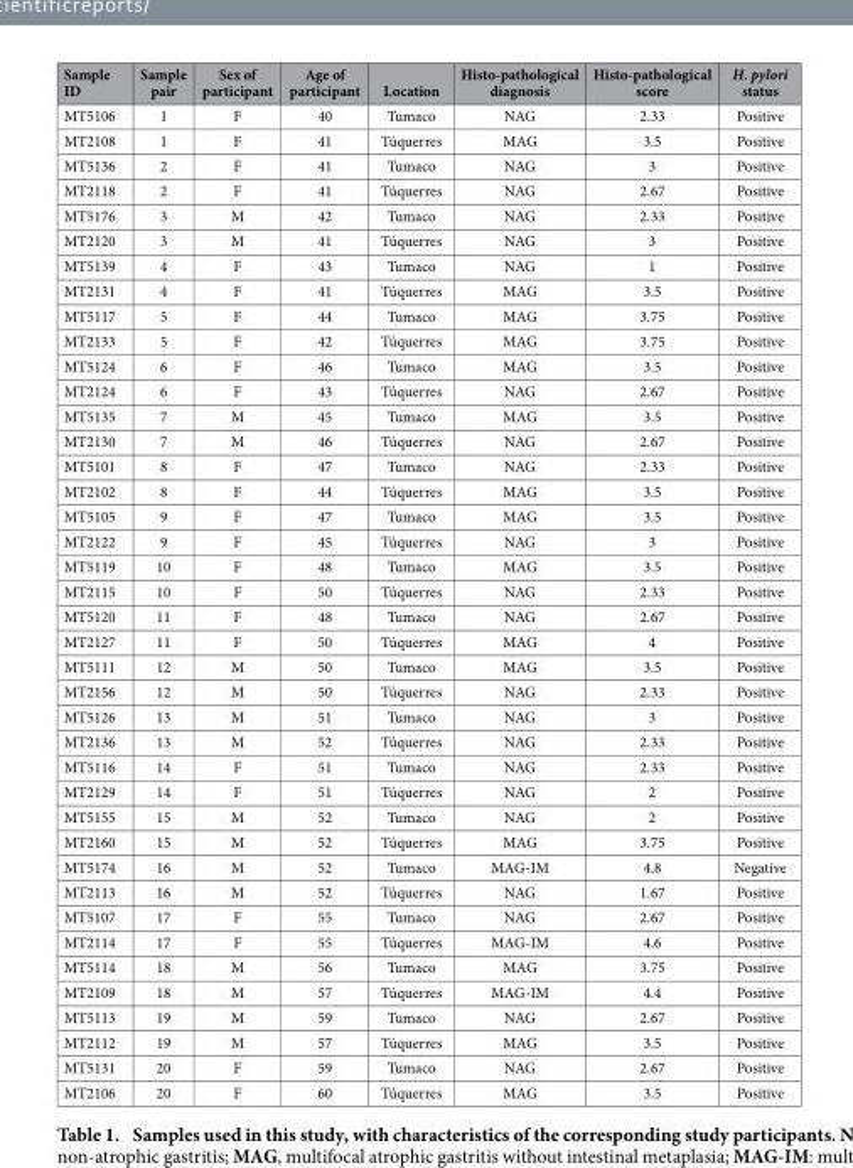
<table><thead><tr><td>Sample ID</td><td>Sample pair</td><td>Sex of participant</td><td>Age of participant</td><td>Location</td><td>Histo-pathological diagnosis</td><td>Histo-pathological score</td><td>H. pylori status</td></tr></thead><tbody><tr><td>MT5106</td><td>1</td><td>F</td><td>40</td><td>Tumaco</td><td>NAG</td><td>2.33</td><td>Positive</td></tr><tr><td>MT2108</td><td>1</td><td>F</td><td>41</td><td>Túquerres</td><td>MAG</td><td>3.5</td><td>Positive</td></tr><tr><td>MT5136</td><td>2</td><td>F</td><td>41</td><td>Tumaco</td><td>NAG</td><td>3</td><td>Positive</td></tr><tr><td>MT2118</td><td>2</td><td>F</td><td>41</td><td>Túquerres</td><td>NAG</td><td>2.67</td><td>Positive</td></tr><tr><td>MT5176</td><td>3</td><td>M</td><td>42</td><td>Tumaco</td><td>NAG</td><td>2.33</td><td>Positive</td></tr><tr><td>MT2120</td><td>3</td><td>M</td><td>41</td><td>Túquerres</td><td>NAG</td><td>3</td><td>Positive</td></tr><tr><td>MT5139</td><td>4</td><td>F</td><td>43</td><td>Tumaco</td><td>NAG</td><td>1</td><td>Positive</td></tr><tr><td>MT2131</td><td>4</td><td>F</td><td>41</td><td>Túquerres</td><td>MAG</td><td>3.5</td><td>Positive</td></tr><tr><td>MT5117</td><td>5</td><td>F</td><td>44</td><td>Tumaco</td><td>MAG</td><td>3.75</td><td>Positive</td></tr><tr><td>MT2133</td><td>5</td><td>F</td><td>42</td><td>Túquerres</td><td>MAG</td><td>3.75</td><td>Positive</td></tr><tr><td>MT5124</td><td>6</td><td>F</td><td>46</td><td>Tumaco</td><td>MAG</td><td>3.5</td><td>Positive</td></tr><tr><td>MT2124</td><td>6</td><td>F</td><td>43</td><td>Túquerres</td><td>NAG</td><td>2.67</td><td>Positive</td></tr><tr><td>MT5135</td><td>7</td><td>M</td><td>45</td><td>Tumaco</td><td>MAG</td><td>3.5</td><td>Positive</td></tr><tr><td>MT2130</td><td>7</td><td>M</td><td>46</td><td>Túquerres</td><td>NAG</td><td>2.67</td><td>Positive</td></tr><tr><td>MT5101</td><td>8</td><td>F</td><td>47</td><td>Tumaco</td><td>NAG</td><td>2.33</td><td>Positive</td></tr><tr><td>MT2102</td><td>8</td><td>F</td><td>44</td><td>Túquerres</td><td>MAG</td><td>3.5</td><td>Positive</td></tr><tr><td>MT5105</td><td>9</td><td>F</td><td>47</td><td>Tumaco</td><td>MAG</td><td>3.5</td><td>Positive</td></tr><tr><td>MT2122</td><td>9</td><td>F</td><td>45</td><td>Túquerres</td><td>NAG</td><td>3</td><td>Positive</td></tr><tr><td>MT5119</td><td>10</td><td>F</td><td>48</td><td>Tumaco</td><td>MAG</td><td>3.5</td><td>Positive</td></tr><tr><td>MT2115</td><td>10</td><td>F</td><td>50</td><td>Túquerres</td><td>NAG</td><td>2.33</td><td>Positive</td></tr><tr><td>MT5120</td><td>11</td><td>F</td><td>48</td><td>Tumaco</td><td>NAG</td><td>2.67</td><td>Positive</td></tr><tr><td>MT2127</td><td>11</td><td>F</td><td>50</td><td>Túquerres</td><td>MAG</td><td>4</td><td>Positive</td></tr><tr><td>MT5111</td><td>12</td><td>M</td><td>50</td><td>Tumaco</td><td>MAG</td><td>3.5</td><td>Positive</td></tr><tr><td>MT2156</td><td>12</td><td>M</td><td>50</td><td>Túquerres</td><td>NAG</td><td>2.33</td><td>Positive</td></tr><tr><td>MT5126</td><td>13</td><td>M</td><td>51</td><td>Tumaco</td><td>NAG</td><td>3</td><td>Positive</td></tr><tr><td>MT2136</td><td>13</td><td>M</td><td>52</td><td>Túquerres</td><td>NAG</td><td>2.33</td><td>Positive</td></tr><tr><td>MT5116</td><td>14</td><td>F</td><td>51</td><td>Tumaco</td><td>NAG</td><td>2.33</td><td>Positive</td></tr><tr><td>MT2129</td><td>14</td><td>F</td><td>51</td><td>Túquerres</td><td>NAG</td><td>2</td><td>Positive</td></tr><tr><td>MT5155</td><td>15</td><td>M</td><td>52</td><td>Tumaco</td><td>NAG</td><td>2</td><td>Positive</td></tr><tr><td>MT2160</td><td>15</td><td>M</td><td>52</td><td>Túquerres</td><td>MAG</td><td>3.75</td><td>Positive</td></tr><tr><td>MT5174</td><td>16</td><td>M</td><td>52</td><td>Tumaco</td><td>MAG-IM</td><td>4.8</td><td>Negative</td></tr><tr><td>MT2113</td><td>16</td><td>M</td><td>52</td><td>Túquerres</td><td>NAG</td><td>1.67</td><td>Positive</td></tr><tr><td>MT5107</td><td>17</td><td>F</td><td>55</td><td>Tumaco</td><td>NAG</td><td>2.67</td><td>Positive</td></tr><tr><td>MT2114</td><td>17</td><td>F</td><td>55</td><td>Túquerres</td><td>MAG-IM</td><td>4.6</td><td>Positive</td></tr><tr><td>MT5114</td><td>18</td><td>M</td><td>56</td><td>Tumaco</td><td>MAG</td><td>3.75</td><td>Positive</td></tr><tr><td>MT2109</td><td>18</td><td>M</td><td>57</td><td>Túquerres</td><td>MAG-IM</td><td>4.4</td><td>Positive</td></tr><tr><td>MT5113</td><td>19</td><td>M</td><td>59</td><td>Tumaco</td><td>NAG</td><td>2.67</td><td>Positive</td></tr><tr><td>MT2112</td><td>19</td><td>M</td><td>57</td><td>Túquerres</td><td>MAG</td><td>3.5</td><td>Positive</td></tr><tr><td>MT5131</td><td>20</td><td>F</td><td>59</td><td>Tumaco</td><td>NAG</td><td>2.67</td><td>Positive</td></tr><tr><td>MT2106</td><td>20</td><td>F</td><td>60</td><td>Túquerres</td><td>MAG</td><td>3.5</td><td>Positive</td></tr></tbody></table>